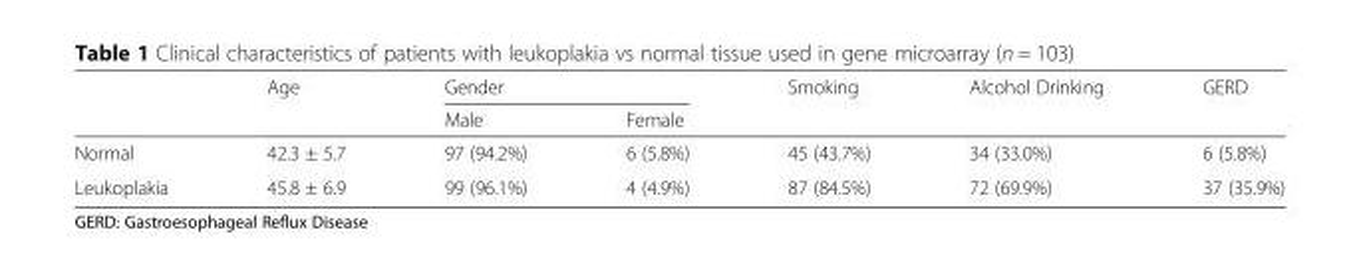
<table><thead><tr><td rowspan="2"></td><td rowspan="2">Age</td><td colspan="2">Gender</td><td rowspan="2">Smoking</td><td rowspan="2">Alcohol Drinking</td><td rowspan="2">GERD</td></tr><tr><td>Male</td><td>Female</td></tr></thead><tbody><tr><td>Normal</td><td>42.3 ± 5.7</td><td>97 (94.2%)</td><td>6 (5.8%)</td><td>45 (43.7%)</td><td>34 (33.0%)</td><td>6 (5.8%)</td></tr><tr><td>Leukoplakia</td><td>45.8 ± 6.9</td><td>99 (96.1%)</td><td>4 (4.9%)</td><td>87 (84.5%)</td><td>72 (69.9%)</td><td>37 (35.9%)</td></tr></tbody></table>